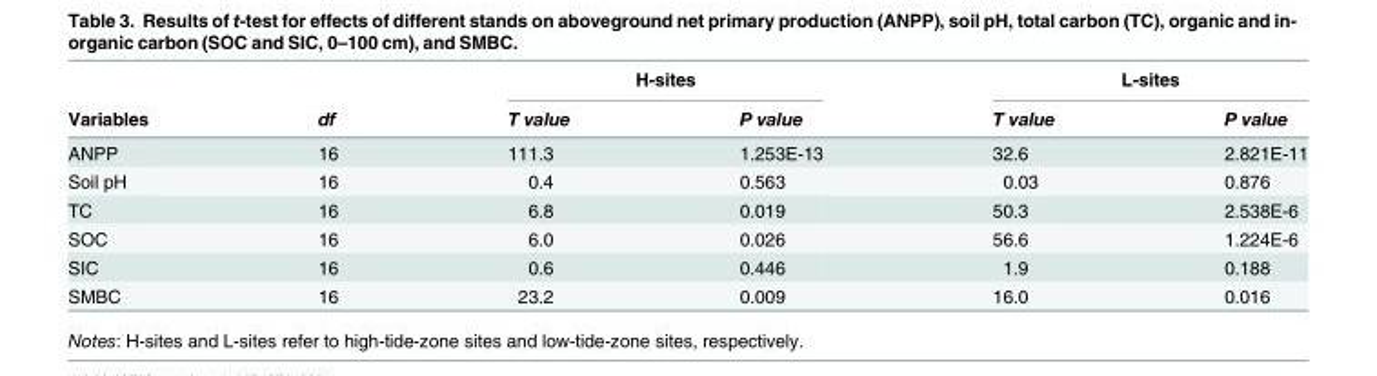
<table><thead><tr><td rowspan="2">Variables</td><td rowspan="2">df</td><td colspan="2">H-sites</td><td colspan="2">L-sites</td></tr><tr><td>T value</td><td>P value</td><td>T value</td><td>P value</td></tr></thead><tbody><tr><td>ANPP</td><td>16</td><td>111.3</td><td>1.253E-13</td><td>32.6</td><td>2.821E-11</td></tr><tr><td>Soil pH</td><td>16</td><td>0.4</td><td>0.563</td><td>0.03</td><td>0.876</td></tr><tr><td>TC</td><td>16</td><td>6.8</td><td>0.019</td><td>50.3</td><td>2.538E-6</td></tr><tr><td>SOC</td><td>16</td><td>6.0</td><td>0.026</td><td>56.6</td><td>1.224E-6</td></tr><tr><td>SIC</td><td>16</td><td>0.6</td><td>0.446</td><td>1.9</td><td>0.188</td></tr><tr><td>SMBC</td><td>16</td><td>23.2</td><td>0.009</td><td>16.0</td><td>0.016</td></tr></tbody></table>